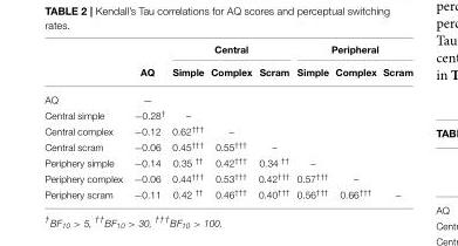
<table><thead><tr><td rowspan="2"></td><td rowspan="2">AQ</td><td colspan="3">Central</td><td colspan="3">Peripheral</td></tr><tr><td>Simple</td><td>Complex</td><td>Scram</td><td>Simple</td><td>Complex</td><td>Scram</td></tr></thead><tbody><tr><td>AQ</td><td>—</td><td></td><td></td><td></td><td></td><td></td><td></td></tr><tr><td>Central simple</td><td>−0.28<sup>†</sup></td><td>–</td><td></td><td></td><td></td><td></td><td></td></tr><tr><td>Central complex</td><td>−0.12</td><td>0.62<sup>†††</sup></td><td>–</td><td></td><td></td><td></td><td></td></tr><tr><td>Central scram</td><td>−0.06</td><td>0.45<sup>†††</sup></td><td>0.55<sup>†††</sup></td><td>–</td><td></td><td></td><td></td></tr><tr><td>Periphery simple</td><td>−0.14</td><td>0.35 <sup>††</sup></td><td>0.42<sup>†††</sup></td><td>0.34 <sup>††</sup></td><td>–</td><td></td><td></td></tr><tr><td>Periphery complex</td><td>−0.06</td><td>0.44<sup>†††</sup></td><td>0.53<sup>†††</sup></td><td>0.42<sup>†††</sup></td><td>0.57<sup>†††</sup></td><td>–</td><td></td></tr><tr><td>Periphery scram</td><td>−0.11</td><td>0.42 <sup>††</sup></td><td>0.46<sup>†††</sup></td><td>0.40<sup>†††</sup></td><td>0.56<sup>†††</sup></td><td>0.66<sup>†††</sup></td><td>–</td></tr></tbody></table>